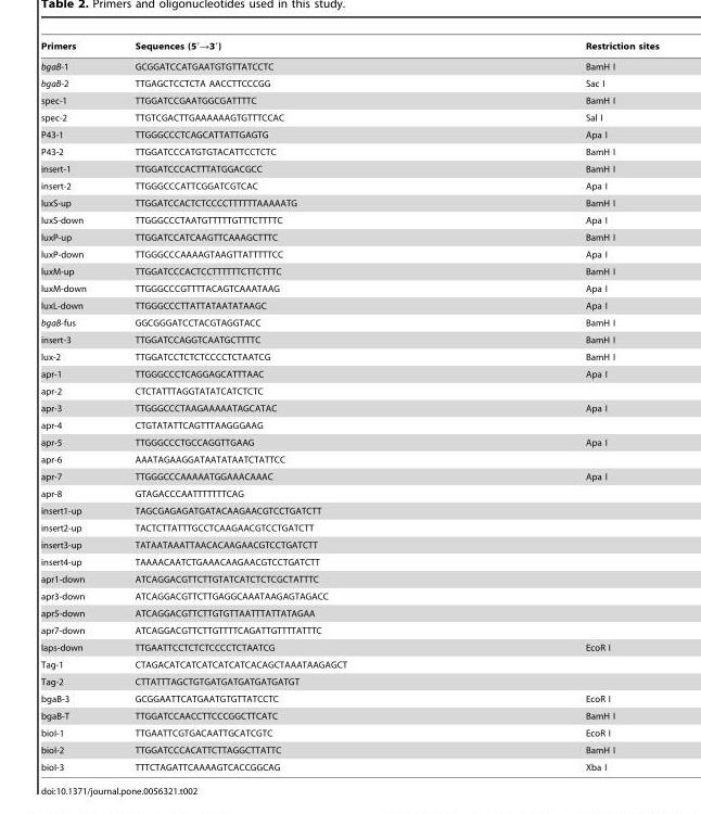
<table><thead><tr><td>Primers</td><td>Sequences (5′→3′)</td><td>Restriction sites</td></tr></thead><tbody><tr><td>bgaB-1</td><td>GCGGATCCATGAATGTGTTATCCTC</td><td>BamH I</td></tr><tr><td>bgaB-2</td><td>TTGAGCTCCTCTA AACCTTCCCGG</td><td>Sac I</td></tr><tr><td>spec-1</td><td>TTGGATCCGAATGGCGATTTTC</td><td>BamH I</td></tr><tr><td>spec-2</td><td>TTGTCGACTTGAAAAAAGTGTTTCCAC</td><td>Sal I</td></tr><tr><td>P43-1</td><td>TTGGGCCCTCAGCATTATTGAGTG</td><td>Apa I</td></tr><tr><td>P43-2</td><td>TTGGATCCCATGTGTACATTCCTCTC</td><td>BamH I</td></tr><tr><td>insert-1</td><td>TTGGATCCCACTTTATGGACGCC</td><td>BamH I</td></tr><tr><td>insert-2</td><td>TTGGGCCCATTCGGATCGTCAC</td><td>Apa I</td></tr><tr><td>luxS-up</td><td>TTGGATCCACTCTCCCCTTTTTTAAAAATG</td><td>BamH I</td></tr><tr><td>luxS-down</td><td>TTGGGCCCTAATGTTTTTGTTTCTTTTC</td><td>Apa I</td></tr><tr><td>luxP-up</td><td>TTGGATCCATCAAGTTCAAAGCTTTC</td><td>BamH I</td></tr><tr><td>luxP-down</td><td>TTGGGCCCAAAAGTAAGTTATTTTTCC</td><td>Apa I</td></tr><tr><td>luxM-up</td><td>TTGGATCCCACTCCTTTTTTCTTCTTTC</td><td>BamH I</td></tr><tr><td>luxM-down</td><td>TTGGGCCCGTTTTACAGTCAAATAAG</td><td>Apa I</td></tr><tr><td>luxL-down</td><td>TTGGGCCCTTATTATAATATAAGC</td><td>Apa I</td></tr><tr><td>bgaB-fus</td><td>GGCGGGATCCTACGTAGGTACC</td><td>BamH I</td></tr><tr><td>insert-3</td><td>TTGGATCCAGGTCAATGCTTTTC</td><td>BamH I</td></tr><tr><td>lux-2</td><td>TTGGATCCTCTCTCCCCTCTAATCG</td><td>BamH I</td></tr><tr><td>apr-1</td><td>TTGGGCCCTCAGGAGCATTTAAC</td><td>Apa I</td></tr><tr><td>apr-2</td><td>CTCTATTTAGGTATATCATCTCTC</td><td></td></tr><tr><td>apr-3</td><td>TTGGGCCCTAAGAAAAATAGCATAC</td><td>Apa I</td></tr><tr><td>apr-4</td><td>CTGTATATTCAGTTTAAGGGAAG</td><td></td></tr><tr><td>apr-5</td><td>TTGGGCCCTGCCAGGTTGAAG</td><td>Apa I</td></tr><tr><td>apr-6</td><td>AAATAGAAGGATAATATAATCTATTCC</td><td></td></tr><tr><td>apr-7</td><td>TTGGGCCCAAAAATGGAAACAAAC</td><td>Apa I</td></tr><tr><td>apr-8</td><td>GTAGACCCAATTTTTTTCAG</td><td></td></tr><tr><td>insert1-up</td><td>TAGCGAGAGATGATACAAGAACGTCCTGATCTT</td><td></td></tr><tr><td>insert2-up</td><td>TACTCTTATTTGCCTCAAGAACGTCCTGATCTT</td><td></td></tr><tr><td>insert3-up</td><td>TATAATAAATTAACACAAGAACGTCCTGATCTT</td><td></td></tr><tr><td>insert4-up</td><td>TAAAACAATCTGAAACAAGAACGTCCTGATCTT</td><td></td></tr><tr><td>apr1-down</td><td>ATCAGGACGTTCTTGTATCATCTCTCGCTATTTC</td><td></td></tr><tr><td>apr3-down</td><td>ATCAGGACGTTCTTGAGGCAAATAAGAGTAGACC</td><td></td></tr><tr><td>apr5-down</td><td>ATCAGGACGTTCTTGTGTTAATTTATTATAGAA</td><td></td></tr><tr><td>apr7-down</td><td>ATCAGGACGTTCTTGTTTTCAGATTGTTTTATTTC</td><td></td></tr><tr><td>laps-down</td><td>TTGAATTCCTCTCTCCCCTCTAATCG</td><td>EcoR I</td></tr><tr><td>Tag-1</td><td>CTAGACATCATCATCATCATCACAGCTAAATAAGAGCT</td><td></td></tr><tr><td>Tag-2</td><td>CTTATTTAGCTGTGATGATGATGATGATGT</td><td></td></tr><tr><td>bgaB-3</td><td>GCGGAATTCATGAATGTGTTATCCTC</td><td>EcoR I</td></tr><tr><td>bgaB-T</td><td>TTGGATCCAACCTTCCCGGCTTCATC</td><td>BamH I</td></tr><tr><td>bioI-1</td><td>TTGAATTCGTGACAATTGCATCGTC</td><td>EcoR I</td></tr><tr><td>bioI-2</td><td>TTGGATCCCACATTCTTAGGCTTATTC</td><td>BamH I</td></tr><tr><td>bioI-3</td><td>TTTCTAGATTCAAAAGTCACCGGCAG</td><td>Xba I</td></tr></tbody></table>